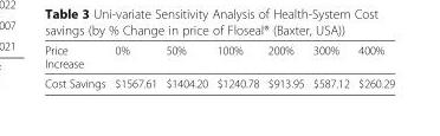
<table><thead><tr><td>Price Increase</td><td>0%</td><td>50%</td><td>100%</td><td>200%</td><td>300%</td><td>400%</td></tr></thead><tbody><tr><td>Cost Savings</td><td>$1567.61</td><td>$1404.20</td><td>$1240.78</td><td>$913.95</td><td>$587.12</td><td>$260.29</td></tr></tbody></table>